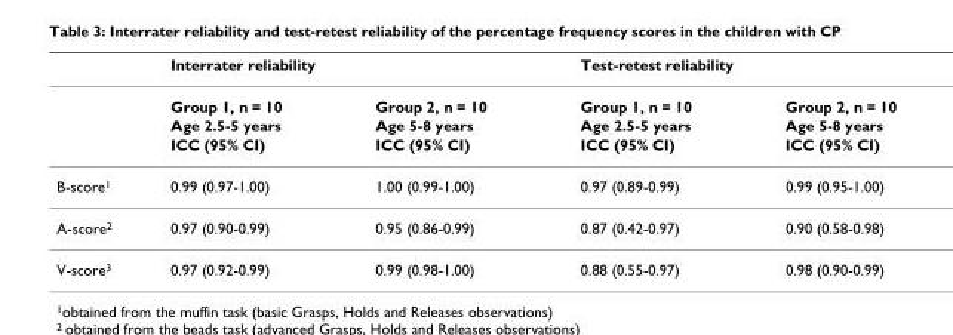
<table><thead><tr><td rowspan="2"></td><td colspan="2">Interrater reliability</td><td colspan="2">Test-retest reliability</td></tr><tr><td>Group 1, n = 10</td><td>Group 2, n = 10</td><td>Group 1, n = 10</td><td>Group 2, n = 10</td></tr></thead><tbody><tr><td></td><td>Age 2.5-5 years</td><td>Age 5-8 years</td><td>Age 2.5-5 years</td><td>Age 5-8 years</td></tr><tr><td></td><td>ICC (95% CI)</td><td>ICC (95% CI)</td><td>ICC (95% CI)</td><td>ICC (95% CI)</td></tr><tr><td>B-score<sup>1</sup></td><td>0.99 (0.97-1.00)</td><td>1.00 (0.99-1.00)</td><td>0.97 (0.89-0.99)</td><td>0.99 (0.95-1.00)</td></tr><tr><td>A-score<sup>2</sup></td><td>0.97 (0.90-0.99)</td><td>0.95 (0.86-0.99)</td><td>0.87 (0.42-0.97)</td><td>0.90 (0.58-0.98)</td></tr><tr><td>V-score<sup>3</sup></td><td>0.97 (0.92-0.99)</td><td>0.99 (0.98-1.00)</td><td>0.88 (0.55-0.97)</td><td>0.98 (0.90-0.99)</td></tr></tbody></table>